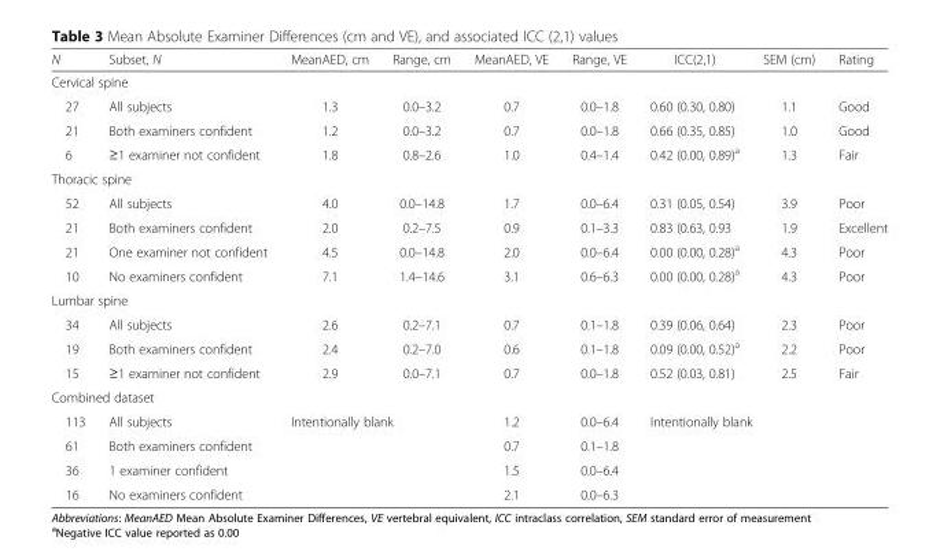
<table><thead><tr><td>N</td><td>Subset, N</td><td>MeanAED, cm</td><td>Range, cm</td><td>MeanAED, VE</td><td>Range, VE</td><td>ICC(2,1)</td><td>SEM (cm)</td><td>Rating</td></tr></thead><tbody><tr><td colspan="9">Cervical spine</td></tr><tr><td>27</td><td>All subjects</td><td>1.3</td><td>0.0–3.2</td><td>0.7</td><td>0.0–1.8</td><td>0.60 (0.30, 0.80)</td><td>1.1</td><td>Good</td></tr><tr><td>21</td><td>Both examiners confident</td><td>1.2</td><td>0.0–3.2</td><td>0.7</td><td>0.0–1.8</td><td>0.66 (0.35, 0.85)</td><td>1.0</td><td>Good</td></tr><tr><td>6</td><td>≥1 examiner not confident</td><td>1.8</td><td>0.8–2.6</td><td>1.0</td><td>0.4–1.4</td><td>0.42 (0.00, 0.89)<sup>a</sup></td><td>1.3</td><td>Fair</td></tr><tr><td colspan="9">Thoracic spine</td></tr><tr><td>52</td><td>All subjects</td><td>4.0</td><td>0.0–14.8</td><td>1.7</td><td>0.0–6.4</td><td>0.31 (0.05, 0.54)</td><td>3.9</td><td>Poor</td></tr><tr><td>21</td><td>Both examiners confident</td><td>2.0</td><td>0.2–7.5</td><td>0.9</td><td>0.1–3.3</td><td>0.83 (0.63, 0.93</td><td>1.9</td><td>Excellent</td></tr><tr><td>21</td><td>One examiner not confident</td><td>4.5</td><td>0.0–14.8</td><td>2.0</td><td>0.0–6.4</td><td>0.00 (0.00, 0.28)<sup>a</sup></td><td>4.3</td><td>Poor</td></tr><tr><td>10</td><td>No examiners confident</td><td>7.1</td><td>1.4–14.6</td><td>3.1</td><td>0.6–6.3</td><td>0.00 (0.00, 0.28)<sup>a</sup></td><td>4.3</td><td>Poor</td></tr><tr><td colspan="9">Lumbar spine</td></tr><tr><td>34</td><td>All subjects</td><td>2.6</td><td>0.2–7.1</td><td>0.7</td><td>0.1–1.8</td><td>0.39 (0.06, 0.64)</td><td>2.3</td><td>Poor</td></tr><tr><td>19</td><td>Both examiners confident</td><td>2.4</td><td>0.2–7.0</td><td>0.6</td><td>0.1–1.8</td><td>0.09 (0.00, 0.52)<sup>a</sup></td><td>2.2</td><td>Poor</td></tr><tr><td>15</td><td>≥1 examiner not confident</td><td>2.9</td><td>0.0–7.1</td><td>0.7</td><td>0.0–1.8</td><td>0.52 (0.03, 0.81)</td><td>2.5</td><td>Fair</td></tr><tr><td colspan="9">Combined dataset</td></tr><tr><td>113</td><td>All subjects</td><td rowspan="4" colspan="2">Intentionally blank</td><td>1.2</td><td>0.0–6.4</td><td rowspan="4" colspan="3">Intentionally blank</td></tr><tr><td>61</td><td>Both examiners confident</td><td>0.7</td><td>0.1–1.8</td></tr><tr><td>36</td><td>1 examiner confident</td><td>1.5</td><td>0.0–6.4</td></tr><tr><td>16</td><td>No examiners confident</td><td>2.1</td><td>0.0–6.3</td></tr></tbody></table>